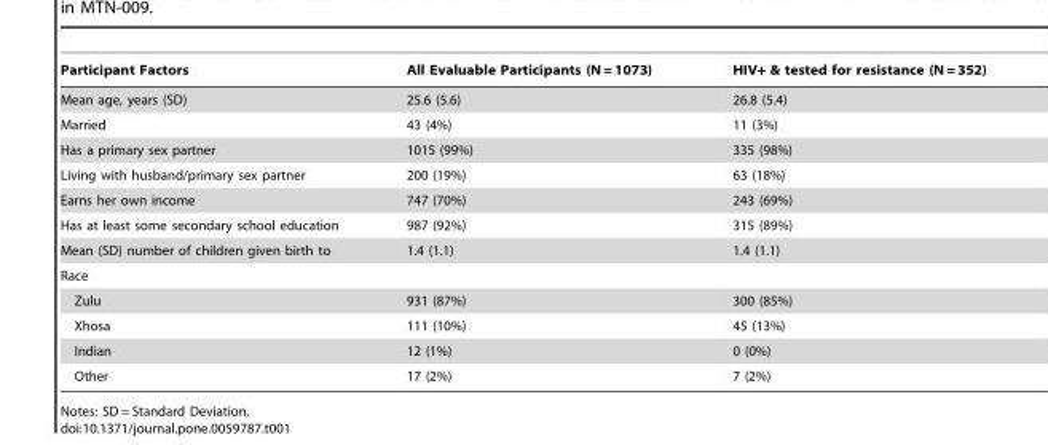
<table><thead><tr><td>Participant Factors</td><td>All Evaluable Participants (N = 1073)</td><td>HIV+ &amp; tested for resistance (N = 352)</td></tr></thead><tbody><tr><td>Mean age, years (SD)</td><td>25.6 (5.6)</td><td>26.8 (5.4)</td></tr><tr><td>Married</td><td>43 (4%)</td><td>11 (3%)</td></tr><tr><td>Has a primary sex partner</td><td>1015 (99%)</td><td>335 (98%)</td></tr><tr><td>Living with husband/primary sex partner</td><td>200 (19%)</td><td>63 (18%)</td></tr><tr><td>Earns her own income</td><td>747 (70%)</td><td>243 (69%)</td></tr><tr><td>Has at least some secondary school education</td><td>987 (92%)</td><td>315 (89%)</td></tr><tr><td>Mean (SD) number of children given birth to</td><td>1.4 (1.1)</td><td>1.4 (1.1)</td></tr><tr><td colspan="3">Race</td></tr><tr><td>Zulu</td><td>931 (87%)</td><td>300 (85%)</td></tr><tr><td>Xhosa</td><td>111 (10%)</td><td>45 (13%)</td></tr><tr><td>Indian</td><td>12 (1%)</td><td>0 (0%)</td></tr><tr><td>Other</td><td>17 (2%)</td><td>7 (2%)</td></tr></tbody></table>